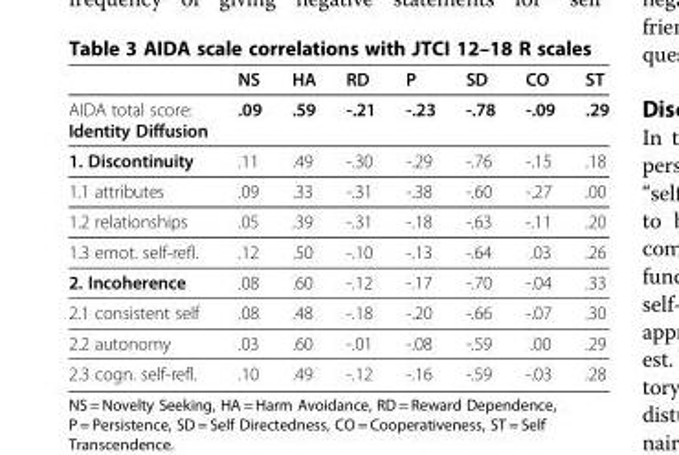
<table><thead><tr><td></td><td>NS</td><td>HA</td><td>RD</td><td>P</td><td>SD</td><td>CO</td><td>ST</td></tr></thead><tbody><tr><td>AIDA total score: Identity Diffusion</td><td>.09</td><td>.59</td><td>-.21</td><td>-.23</td><td>-.78</td><td>-.09</td><td>.29</td></tr><tr><td>1. Discontinuity</td><td>.11</td><td>.49</td><td>-.30</td><td>-.29</td><td>-.76</td><td>-.15</td><td>.18</td></tr><tr><td>1.1 attributes</td><td>.09</td><td>.33</td><td>-.31</td><td>-.38</td><td>-.60</td><td>-.27</td><td>.00</td></tr><tr><td>1.2 relationships</td><td>.05</td><td>.39</td><td>-.31</td><td>-.18</td><td>-.63</td><td>-.11</td><td>.20</td></tr><tr><td>1.3 emot. self-refl.</td><td>.12</td><td>.50</td><td>-.10</td><td>-.13</td><td>-.64</td><td>.03</td><td>.26</td></tr><tr><td>2. Incoherence</td><td>.08</td><td>.60</td><td>-.12</td><td>-.17</td><td>-.70</td><td>-.04</td><td>.33</td></tr><tr><td>2.1 consistent self</td><td>.08</td><td>.48</td><td>-.18</td><td>-.20</td><td>-.66</td><td>-.07</td><td>.30</td></tr><tr><td>2.2 autonomy</td><td>.03</td><td>.60</td><td>-.01</td><td>-.08</td><td>-.59</td><td>.00</td><td>.29</td></tr><tr><td>2.3 cogn. self-refl.</td><td>.10</td><td>.49</td><td>-.12</td><td>-.16</td><td>-.59</td><td>-.03</td><td>.28</td></tr></tbody></table>